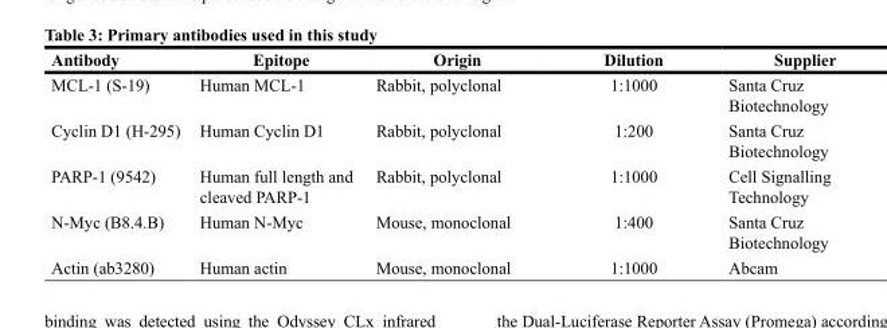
<table><thead><tr><td>Antibody</td><td>Epitope</td><td>Origin</td><td>Dilution</td><td>Supplier</td></tr></thead><tbody><tr><td>MCL-1 (S-19)</td><td>Human MCL-1</td><td>Rabbit, polyclonal</td><td>1:1000</td><td>Santa Cruz Biotechnology</td></tr><tr><td>Cyclin D1 (H-295)</td><td>Human Cyclin D1</td><td>Rabbit, polyclonal</td><td>1:200</td><td>Santa Cruz Biotechnology</td></tr><tr><td>PARP-1 (9542)</td><td>Human full length and cleaved PARP-1</td><td>Rabbit, polyclonal</td><td>1:1000</td><td>Cell Signalling Technology</td></tr><tr><td>N-Myc (B8.4.B)</td><td>Human N-Myc</td><td>Mouse, monoclonal</td><td>1:400</td><td>Santa Cruz Biotechnology</td></tr><tr><td>Actin (ab3280)</td><td>Human actin</td><td>Mouse, monoclonal</td><td>1:1000</td><td>Abcam</td></tr></tbody></table>